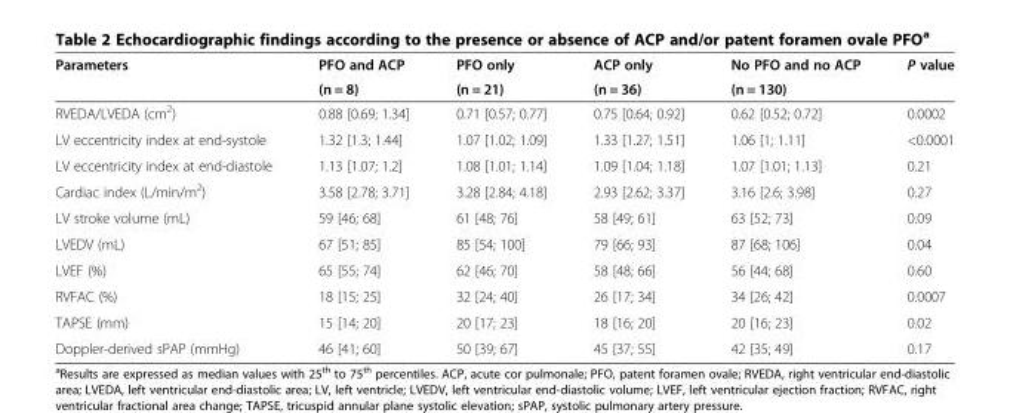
<table><thead><tr><td rowspan="2">Parameters</td><td rowspan="2">PFO and ACP (n = 8)</td><td rowspan="2">PFO only (n = 21)</td><td rowspan="2">ACP only (n = 36)</td><td rowspan="2">No PFO and no ACP (n = 130)</td><td rowspan="2">P value</td></tr><tr></tr></thead><tbody><tr><td>RVEDA/LVEDA (cm<sup>2</sup>)</td><td>0.88 [0.69; 1.34]</td><td>0.71 [0.57; 0.77]</td><td>0.75 [0.64; 0.92]</td><td>0.62 [0.52; 0.72]</td><td>0.0002</td></tr><tr><td>LV eccentricity index at end-systole</td><td>1.32 [1.3; 1.44]</td><td>1.07 [1.02; 1.09]</td><td>1.33 [1.27; 1.51]</td><td>1.06 [1; 1.11]</td><td>&lt;0.0001</td></tr><tr><td>LV eccentricity index at end-diastole</td><td>1.13 [1.07; 1.2]</td><td>1.08 [1.01; 1.14]</td><td>1.09 [1.04; 1.18]</td><td>1.07 [1.01; 1.13]</td><td>0.21</td></tr><tr><td>Cardiac index (L/min/m<sup>2</sup>)</td><td>3.58 [2.78; 3.71]</td><td>3.28 [2.84; 4.18]</td><td>2.93 [2.62; 3.37]</td><td>3.16 [2.6; 3.98]</td><td>0.27</td></tr><tr><td>LV stroke volume (mL)</td><td>59 [46; 68]</td><td>61 [48; 76]</td><td>58 [49; 61]</td><td>63 [52; 73]</td><td>0.09</td></tr><tr><td>LVEDV (mL)</td><td>67 [51; 85]</td><td>85 [54; 100]</td><td>79 [66; 93]</td><td>87 [68; 106]</td><td>0.04</td></tr><tr><td>LVEF (%)</td><td>65 [55; 74]</td><td>62 [46; 70]</td><td>58 [48; 66]</td><td>56 [44; 68]</td><td>0.60</td></tr><tr><td>RVFAC (%)</td><td>18 [15; 25]</td><td>32 [24; 40]</td><td>26 [17; 34]</td><td>34 [26; 42]</td><td>0.0007</td></tr><tr><td>TAPSE (mm)</td><td>15 [14; 20]</td><td>20 [17; 23]</td><td>18 [16; 20]</td><td>20 [16; 23]</td><td>0.02</td></tr><tr><td>Doppler-derived sPAP (mmHg)</td><td>46 [41; 60]</td><td>50 [39; 67]</td><td>45 [37; 55]</td><td>42 [35; 49]</td><td>0.17</td></tr></tbody></table>